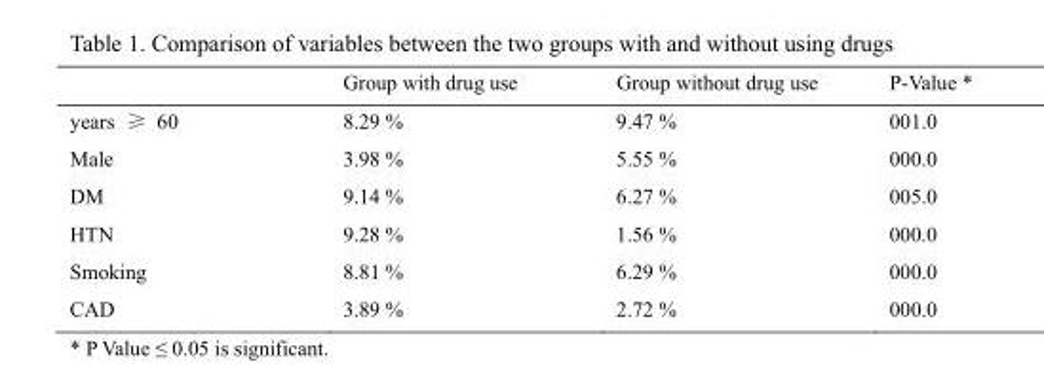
<table><thead><tr><td></td><td>Group with drug use</td><td>Group without drug use</td><td>P-Value *</td></tr></thead><tbody><tr><td>years ≥ 60</td><td>8.29 %</td><td>9.47 %</td><td>001.0</td></tr><tr><td>Male</td><td>3.98 %</td><td>5.55 %</td><td>000.0</td></tr><tr><td>DM</td><td>9.14 %</td><td>6.27 %</td><td>005.0</td></tr><tr><td>HTN</td><td>9.28 %</td><td>1.56 %</td><td>000.0</td></tr><tr><td>Smoking</td><td>8.81 %</td><td>6.29 %</td><td>000.0</td></tr><tr><td>CAD</td><td>3.89 %</td><td>2.72 %</td><td>000.0</td></tr></tbody></table>